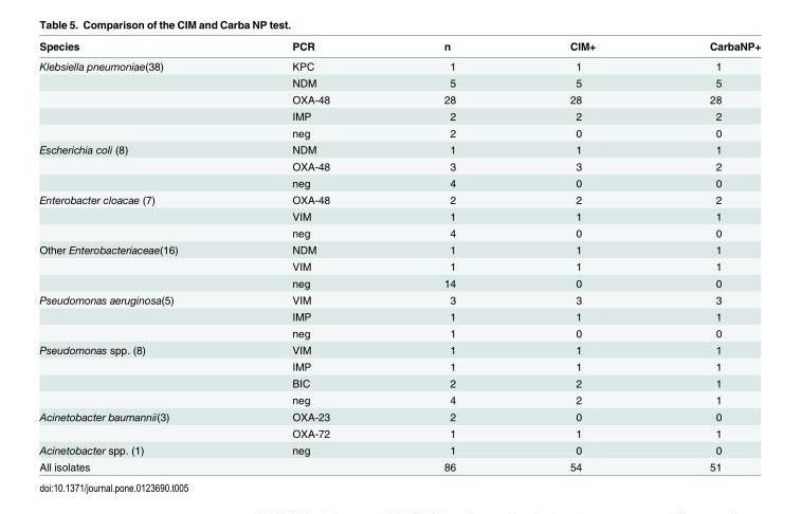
<table><thead><tr><td>Species</td><td>PCR</td><td>n</td><td>CIM+</td><td>CarbaNP+</td></tr></thead><tbody><tr><td rowspan="5">Klebsiella pneumoniae(38)</td><td>KPC</td><td>1</td><td>1</td><td>1</td></tr><tr><td>NDM</td><td>5</td><td>5</td><td>5</td></tr><tr><td>OXA-48</td><td>28</td><td>28</td><td>28</td></tr><tr><td>IMP</td><td>2</td><td>2</td><td>2</td></tr><tr><td>neg</td><td>2</td><td>0</td><td>0</td></tr><tr><td rowspan="3">Escherichia coli (8)</td><td>NDM</td><td>1</td><td>1</td><td>1</td></tr><tr><td>OXA-48</td><td>3</td><td>3</td><td>2</td></tr><tr><td>neg</td><td>4</td><td>0</td><td>0</td></tr><tr><td rowspan="3">Enterobacter cloacae (7)</td><td>OXA-48</td><td>2</td><td>2</td><td>2</td></tr><tr><td>VIM</td><td>1</td><td>1</td><td>1</td></tr><tr><td>neg</td><td>4</td><td>0</td><td>0</td></tr><tr><td rowspan="3">Other Enterobacteriaceae(16)</td><td>NDM</td><td>1</td><td>1</td><td>1</td></tr><tr><td>VIM</td><td>1</td><td>1</td><td>1</td></tr><tr><td>neg</td><td>14</td><td>0</td><td>0</td></tr><tr><td rowspan="3">Pseudomonas aeruginosa(5)</td><td>VIM</td><td>3</td><td>3</td><td>3</td></tr><tr><td>IMP</td><td>1</td><td>1</td><td>1</td></tr><tr><td>neg</td><td>1</td><td>0</td><td>0</td></tr><tr><td rowspan="4">Pseudomonas spp. (8)</td><td>VIM</td><td>1</td><td>1</td><td>1</td></tr><tr><td>IMP</td><td>1</td><td>1</td><td>1</td></tr><tr><td>BIC</td><td>2</td><td>2</td><td>1</td></tr><tr><td>neg</td><td>4</td><td>2</td><td>1</td></tr><tr><td rowspan="2">Acinetobacter baumannii(3)</td><td>OXA-23</td><td>2</td><td>0</td><td>0</td></tr><tr><td>OXA-72</td><td>1</td><td>1</td><td>1</td></tr><tr><td>Acinetobacter spp. (1)</td><td>neg</td><td>1</td><td>0</td><td>0</td></tr><tr><td>All isolates</td><td></td><td>86</td><td>54</td><td>51</td></tr></tbody></table>